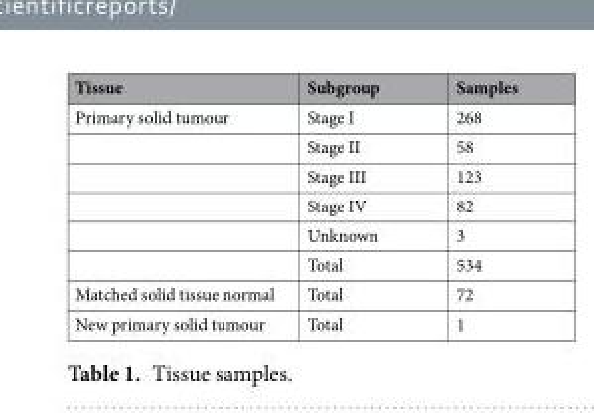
<table><thead><tr><td>Tissue</td><td>Subgroup</td><td>Samples</td></tr></thead><tbody><tr><td rowspan="6">Primary solid tumour</td><td>Stage I</td><td>268</td></tr><tr><td>Stage II</td><td>58</td></tr><tr><td>Stage III</td><td>123</td></tr><tr><td>Stage IV</td><td>82</td></tr><tr><td>Unknown</td><td>3</td></tr><tr><td>Total</td><td>534</td></tr><tr><td>Matched solid tissue normal</td><td>Total</td><td>72</td></tr><tr><td>New primary solid tumour</td><td>Total</td><td>1</td></tr></tbody></table>